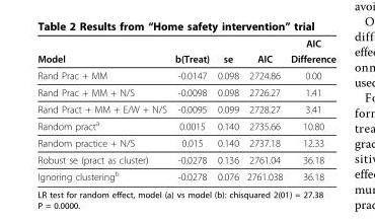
<table><thead><tr><td rowspan="2">Model</td><td rowspan="2">b(Treat)</td><td rowspan="2">se</td><td rowspan="2">AIC</td><td rowspan="2">AIC Difference</td></tr><tr></tr></thead><tbody><tr><td>Rand Prac + MM</td><td>-0.0147</td><td>0.098</td><td>2724.86</td><td>0.00</td></tr><tr><td>Rand Prac + MM + N/S</td><td>-0.0098</td><td>0.098</td><td>2726.27</td><td>1.41</td></tr><tr><td>Rand Pract + MM + E/W + N/S</td><td>-0.0095</td><td>0.099</td><td>2728.27</td><td>3.41</td></tr><tr><td>Random pract<sup>a</sup></td><td>0.0015</td><td>0.140</td><td>2735.66</td><td>10.80</td></tr><tr><td>Random practice + N/S</td><td>0.015</td><td>0.140</td><td>2737.18</td><td>12.33</td></tr><tr><td>Robust se (pract as cluster)</td><td>-0.0278</td><td>0.136</td><td>2761.04</td><td>36.18</td></tr><tr><td>Ignoring clustering<sup>b</sup></td><td>-0.0278</td><td>0.076</td><td>2761.038</td><td>36.18</td></tr></tbody></table>